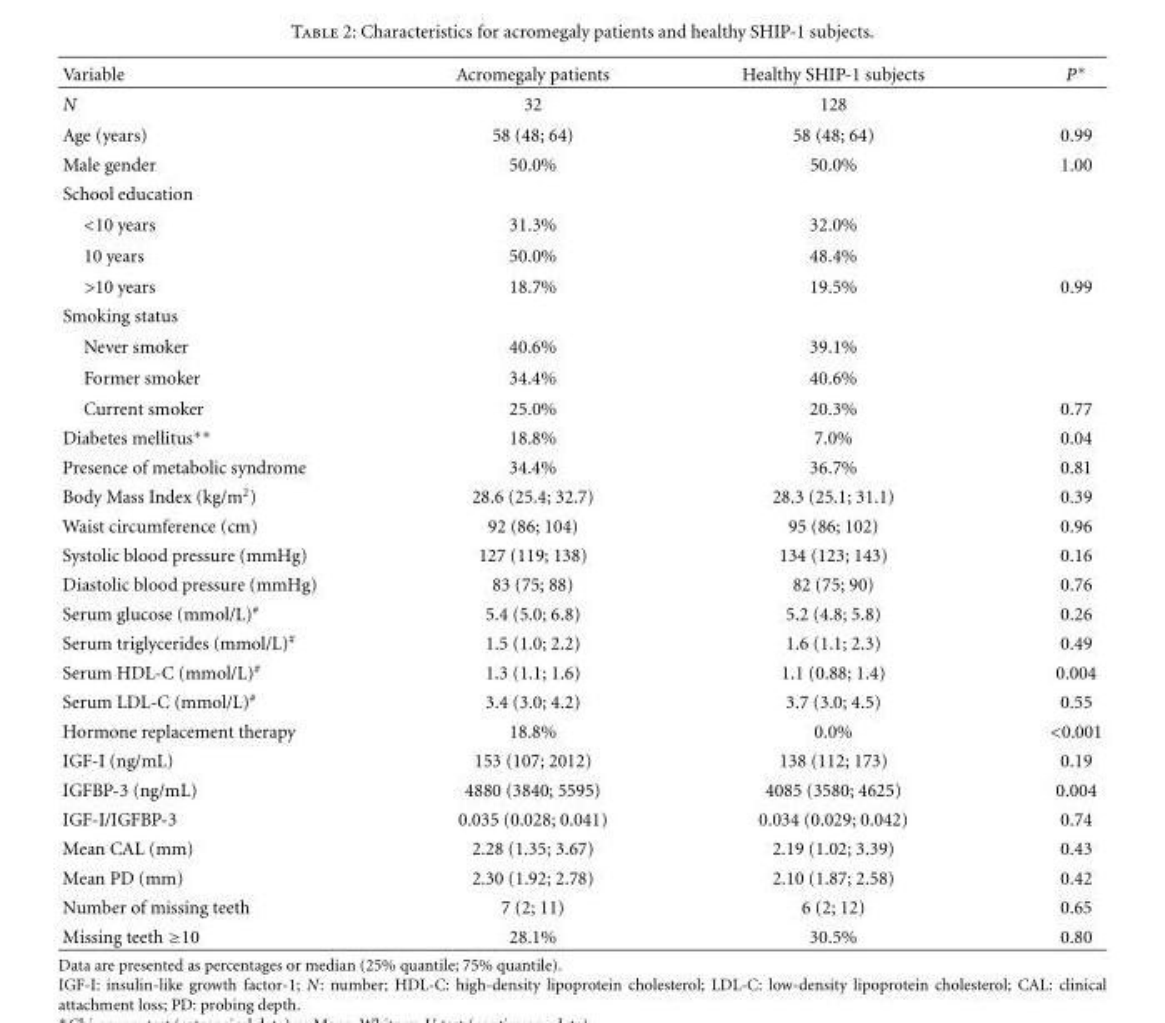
<table><thead><tr><td>Variable</td><td>Acromegaly patients</td><td>Healthy SHIP-1 subjects</td><td>P∗</td></tr></thead><tbody><tr><td>N</td><td>32</td><td>128</td><td></td></tr><tr><td>Age (years)</td><td>58 (48; 64)</td><td>58 (48; 64)</td><td>0.99</td></tr><tr><td>Male gender</td><td>50.0%</td><td>50.0%</td><td>1.00</td></tr><tr><td colspan="4">School education</td></tr><tr><td>&lt;10 years</td><td>31.3%</td><td>32.0%</td><td></td></tr><tr><td>10 years</td><td>50.0%</td><td>48.4%</td><td></td></tr><tr><td>&gt;10 years</td><td>18.7%</td><td>19.5%</td><td>0.99</td></tr><tr><td colspan="4">Smoking status</td></tr><tr><td>Never smoker</td><td>40.6%</td><td>39.1%</td><td></td></tr><tr><td>Former smoker</td><td>34.4%</td><td>40.6%</td><td></td></tr><tr><td>Current smoker</td><td>25.0%</td><td>20.3%</td><td>0.77</td></tr><tr><td>Diabetes mellitus∗∗</td><td>18.8%</td><td>7.0%</td><td>0.04</td></tr><tr><td>Presence of metabolic syndrome</td><td>34.4%</td><td>36.7%</td><td>0.81</td></tr><tr><td>Body Mass Index (kg/m<sup>2</sup>)</td><td>28.6 (25.4; 32.7)</td><td>28.3 (25.1; 31.1)</td><td>0.39</td></tr><tr><td>Waist circumference (cm)</td><td>92 (86; 104)</td><td>95 (86; 102)</td><td>0.96</td></tr><tr><td>Systolic blood pressure (mmHg)</td><td>127 (119; 138)</td><td>134 (123; 143)</td><td>0.16</td></tr><tr><td>Diastolic blood pressure (mmHg)</td><td>83 (75; 88)</td><td>82 (75; 90)</td><td>0.76</td></tr><tr><td>Serum glucose (mmol/L)<sup>#</sup></td><td>5.4 (5.0; 6.8)</td><td>5.2 (4.8; 5.8)</td><td>0.26</td></tr><tr><td>Serum triglycerides (mmol/L)<sup>#</sup></td><td>1.5 (1.0; 2.2)</td><td>1.6 (1.1; 2.3)</td><td>0.49</td></tr><tr><td>Serum HDL-C (mmol/L)<sup>#</sup></td><td>1.3 (1.1; 1.6)</td><td>1.1 (0.88; 1.4)</td><td>0.004</td></tr><tr><td>Serum LDL-C (mmol/L)<sup>#</sup></td><td>3.4 (3.0; 4.2)</td><td>3.7 (3.0; 4.5)</td><td>0.55</td></tr><tr><td>Hormone replacement therapy</td><td>18.8%</td><td>0.0%</td><td>&lt;0.001</td></tr><tr><td>IGF-I (ng/mL)</td><td>153 (107; 2012)</td><td>138 (112; 173)</td><td>0.19</td></tr><tr><td>IGFBP-3 (ng/mL)</td><td>4880 (3840; 5595)</td><td>4085 (3580; 4625)</td><td>0.004</td></tr><tr><td>IGF-I/IGFBP-3</td><td>0.035 (0.028; 0.041)</td><td>0.034 (0.029; 0.042)</td><td>0.74</td></tr><tr><td>Mean CAL (mm)</td><td>2.28 (1.35; 3.67)</td><td>2.19 (1.02; 3.39)</td><td>0.43</td></tr><tr><td>Mean PD (mm)</td><td>2.30 (1.92; 2.78)</td><td>2.10 (1.87; 2.58)</td><td>0.42</td></tr><tr><td>Number of missing teeth</td><td>7 (2; 11)</td><td>6 (2; 12)</td><td>0.65</td></tr><tr><td>Missing teeth ≥10</td><td>28.1%</td><td>30.5%</td><td>0.80</td></tr></tbody></table>